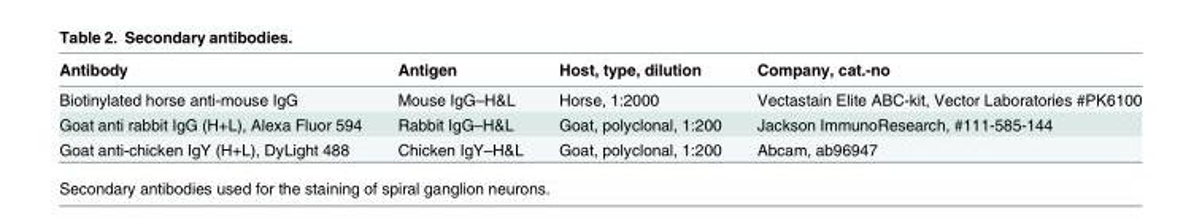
<table><thead><tr><td>Antibody</td><td>Antigen</td><td>Host, type, dilution</td><td>Company, cat.-no</td></tr></thead><tbody><tr><td>Biotinylated horse anti-mouse IgG</td><td>Mouse IgG–H&amp;L</td><td>Horse, 1:2000</td><td>Vectastain Elite ABC-kit, Vector Laboratories #PK6100</td></tr><tr><td>Goat anti rabbit IgG (H+L), Alexa Fluor 594</td><td>Rabbit IgG–H&amp;L</td><td>Goat, polyclonal, 1:200</td><td>Jackson ImmunoResearch, #111-585-144</td></tr><tr><td>Goat anti-chicken IgY (H+L), DyLight 488</td><td>Chicken IgY–H&amp;L</td><td>Goat, polyclonal, 1:200</td><td>Abcam, ab96947</td></tr></tbody></table>